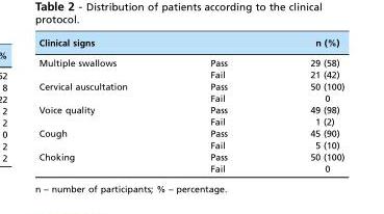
<table><thead><tr><td>Clinical signs</td><td></td><td>n (%)</td></tr></thead><tbody><tr><td rowspan="2">Multiple swallows</td><td>Pass</td><td>29 (58)</td></tr><tr><td>Fail</td><td>21 (42)</td></tr><tr><td rowspan="2">Cervical auscultation</td><td>Pass</td><td>50 (100)</td></tr><tr><td>Fail</td><td>0</td></tr><tr><td rowspan="2">Voice quality</td><td>Pass</td><td>49 (98)</td></tr><tr><td>Fail</td><td>1 (2)</td></tr><tr><td rowspan="2">Cough</td><td>Pass</td><td>45 (90)</td></tr><tr><td>Fail</td><td>5 (10)</td></tr><tr><td rowspan="2">Choking</td><td>Pass</td><td>50 (100)</td></tr><tr><td>Fail</td><td>0</td></tr></tbody></table>